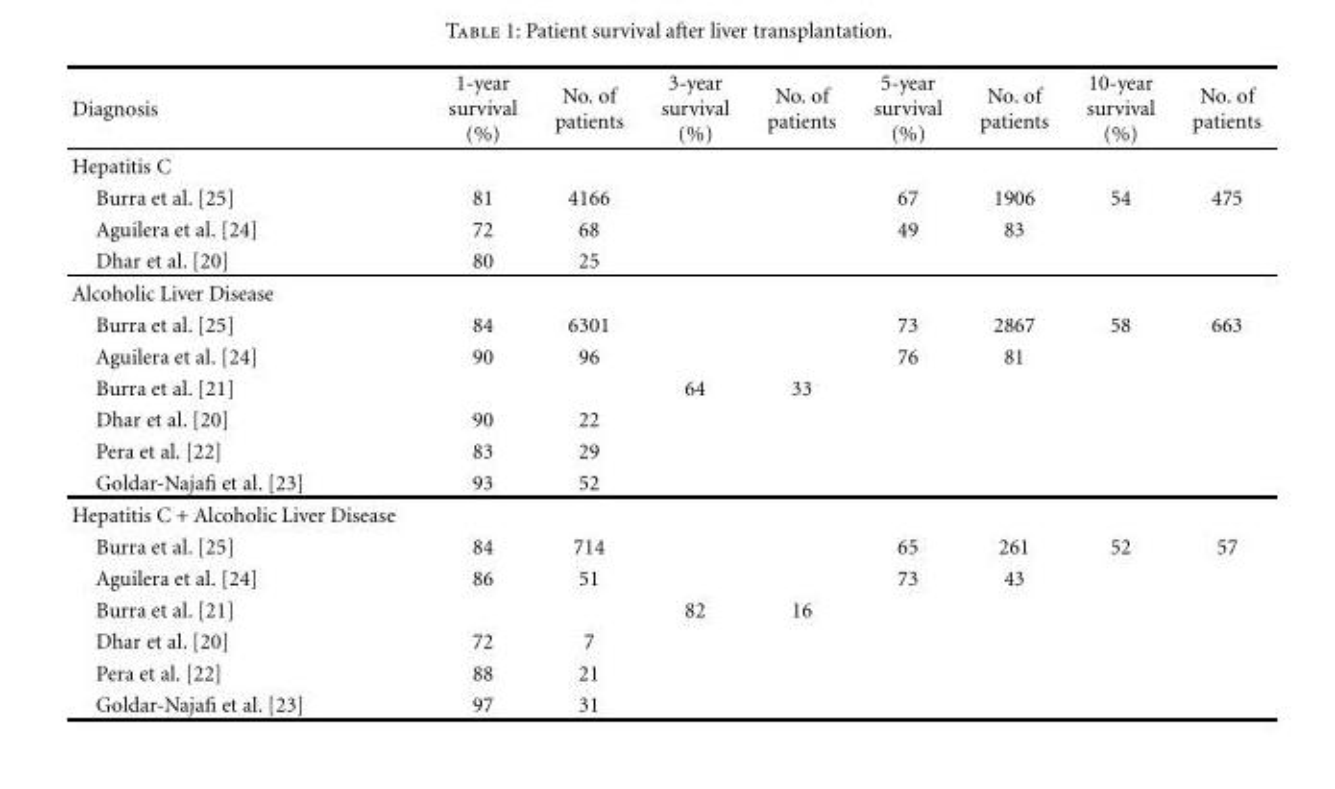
<table><thead><tr><td>Diagnosis</td><td>1-year survival (%)</td><td>No. of patients</td><td>3-year survival (%)</td><td>No. of patients</td><td>5-year survival (%)</td><td>No. of patients</td><td>10-year survival (%)</td><td>No. of patients</td></tr></thead><tbody><tr><td colspan="9">Hepatitis C</td></tr><tr><td>Burra et al. [25]</td><td>81</td><td>4166</td><td></td><td></td><td>67</td><td>1906</td><td>54</td><td>475</td></tr><tr><td>Aguilera et al. [24]</td><td>72</td><td>68</td><td></td><td></td><td>49</td><td>83</td><td></td><td></td></tr><tr><td>Dhar et al. [20]</td><td>80</td><td>25</td><td></td><td></td><td></td><td></td><td></td><td></td></tr><tr><td colspan="9">Alcoholic Liver Disease</td></tr><tr><td>Burra et al. [25]</td><td>84</td><td>6301</td><td></td><td></td><td>73</td><td>2867</td><td>58</td><td>663</td></tr><tr><td>Aguilera et al. [24]</td><td>90</td><td>96</td><td></td><td></td><td>76</td><td>81</td><td></td><td></td></tr><tr><td>Burra et al. [21]</td><td></td><td></td><td>64</td><td>33</td><td></td><td></td><td></td><td></td></tr><tr><td>Dhar et al. [20]</td><td>90</td><td>22</td><td></td><td></td><td></td><td></td><td></td><td></td></tr><tr><td>Pera et al. [22]</td><td>83</td><td>29</td><td></td><td></td><td></td><td></td><td></td><td></td></tr><tr><td>Goldar-Najafi et al. [23]</td><td>93</td><td>52</td><td></td><td></td><td></td><td></td><td></td><td></td></tr><tr><td colspan="9">Hepatitis C + Alcoholic Liver Disease</td></tr><tr><td>Burra et al. [25]</td><td>84</td><td>714</td><td></td><td></td><td>65</td><td>261</td><td>52</td><td>57</td></tr><tr><td>Aguilera et al. [24]</td><td>86</td><td>51</td><td></td><td></td><td>73</td><td>43</td><td></td><td></td></tr><tr><td>Burra et al. [21]</td><td></td><td></td><td>82</td><td>16</td><td></td><td></td><td></td><td></td></tr><tr><td>Dhar et al. [20]</td><td>72</td><td>7</td><td></td><td></td><td></td><td></td><td></td><td></td></tr><tr><td>Pera et al. [22]</td><td>88</td><td>21</td><td></td><td></td><td></td><td></td><td></td><td></td></tr><tr><td>Goldar-Najafi et al. [23]</td><td>97</td><td>31</td><td></td><td></td><td></td><td></td><td></td><td></td></tr></tbody></table>